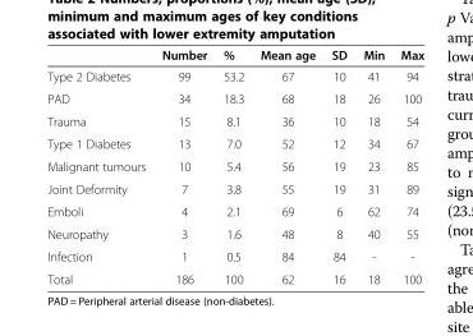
<table><thead><tr><td></td><td>Number</td><td>%</td><td>Mean age</td><td>SD</td><td>Min</td><td>Max</td></tr></thead><tbody><tr><td>Type 2 Diabetes</td><td>99</td><td>53.2</td><td>67</td><td>10</td><td>41</td><td>94</td></tr><tr><td>PAD</td><td>34</td><td>18.3</td><td>68</td><td>18</td><td>26</td><td>100</td></tr><tr><td>Trauma</td><td>15</td><td>8.1</td><td>36</td><td>10</td><td>18</td><td>54</td></tr><tr><td>Type 1 Diabetes</td><td>13</td><td>7.0</td><td>52</td><td>12</td><td>34</td><td>67</td></tr><tr><td>Malignant tumours</td><td>10</td><td>5.4</td><td>56</td><td>19</td><td>23</td><td>85</td></tr><tr><td>Joint Deformity</td><td>7</td><td>3.8</td><td>55</td><td>19</td><td>31</td><td>89</td></tr><tr><td>Emboli</td><td>4</td><td>2.1</td><td>69</td><td>6</td><td>62</td><td>74</td></tr><tr><td>Neuropathy</td><td>3</td><td>1.6</td><td>48</td><td>8</td><td>40</td><td>55</td></tr><tr><td>Infection</td><td>1</td><td>0.5</td><td>84</td><td>84</td><td>-</td><td>-</td></tr><tr><td>Total</td><td>186</td><td>100</td><td>62</td><td>16</td><td>18</td><td>100</td></tr></tbody></table>